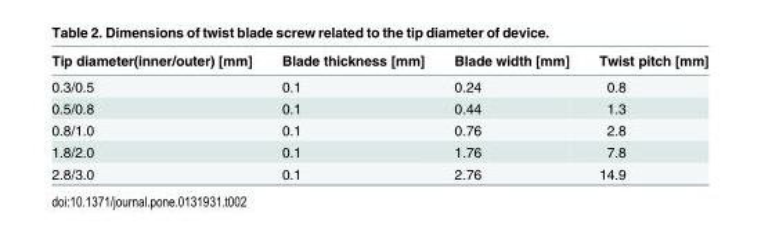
<table><thead><tr><td>Tip diameter(inner/outer) [mm]</td><td>Blade thickness [mm]</td><td>Blade width [mm]</td><td>Twist pitch [mm]</td></tr></thead><tbody><tr><td>0.3/0.5</td><td>0.1</td><td>0.24</td><td>0.8</td></tr><tr><td>0.5/0.8</td><td>0.1</td><td>0.44</td><td>1.3</td></tr><tr><td>0.8/1.0</td><td>0.1</td><td>0.76</td><td>2.8</td></tr><tr><td>1.8/2.0</td><td>0.1</td><td>1.76</td><td>7.8</td></tr><tr><td>2.8/3.0</td><td>0.1</td><td>2.76</td><td>14.9</td></tr></tbody></table>